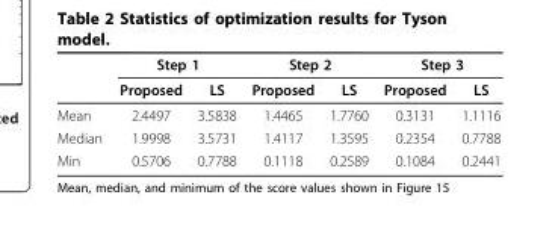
<table><thead><tr><td rowspan="2"></td><td colspan="2">Step 1</td><td colspan="2">Step 2</td><td colspan="2">Step 3</td></tr><tr><td>Proposed</td><td>LS</td><td>Proposed</td><td>LS</td><td>Proposed</td><td>LS</td></tr></thead><tbody><tr><td>Mean</td><td>2.4497</td><td>3.5838</td><td>1.4465</td><td>1.7760</td><td>0.3131</td><td>1.1116</td></tr><tr><td>Median</td><td>1.9998</td><td>3.5731</td><td>1.4117</td><td>1.3595</td><td>0.2354</td><td>0.7788</td></tr><tr><td>Min</td><td>0.5706</td><td>0.7788</td><td>0.1118</td><td>0.2589</td><td>0.1084</td><td>0.2441</td></tr></tbody></table>